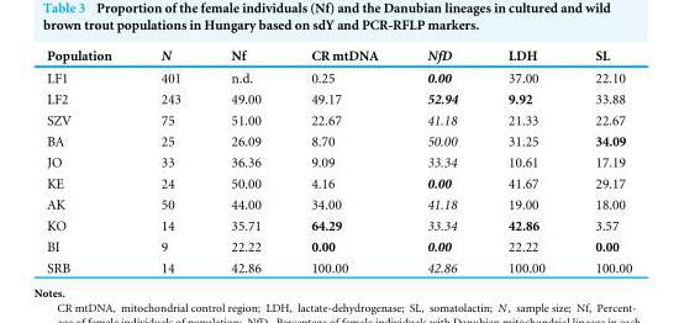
<table><thead><tr><td>Population</td><td>N</td><td>Nf</td><td>CR mtDNA</td><td>NfD</td><td>LDH</td><td>SL</td></tr></thead><tbody><tr><td>LF1</td><td>401</td><td>n.d.</td><td>0.25</td><td>0.00</td><td>37.00</td><td>22.10</td></tr><tr><td>LF2</td><td>243</td><td>49.00</td><td>49.17</td><td>52.94</td><td>9.92</td><td>33.88</td></tr><tr><td>SZV</td><td>75</td><td>51.00</td><td>22.67</td><td>41.18</td><td>21.33</td><td>22.67</td></tr><tr><td>BA</td><td>25</td><td>26.09</td><td>8.70</td><td>50.00</td><td>31.25</td><td>34.09</td></tr><tr><td>JO</td><td>33</td><td>36.36</td><td>9.09</td><td>33.34</td><td>10.61</td><td>17.19</td></tr><tr><td>KE</td><td>24</td><td>50.00</td><td>4.16</td><td>0.00</td><td>41.67</td><td>29.17</td></tr><tr><td>AK</td><td>50</td><td>44.00</td><td>34.00</td><td>41.18</td><td>19.00</td><td>18.00</td></tr><tr><td>KO</td><td>14</td><td>35.71</td><td>64.29</td><td>33.34</td><td>42.86</td><td>3.57</td></tr><tr><td>BI</td><td>9</td><td>22.22</td><td>0.00</td><td>0.00</td><td>22.22</td><td>0.00</td></tr><tr><td>SRB</td><td>14</td><td>42.86</td><td>100.00</td><td>42.86</td><td>100.00</td><td>100.00</td></tr></tbody></table>